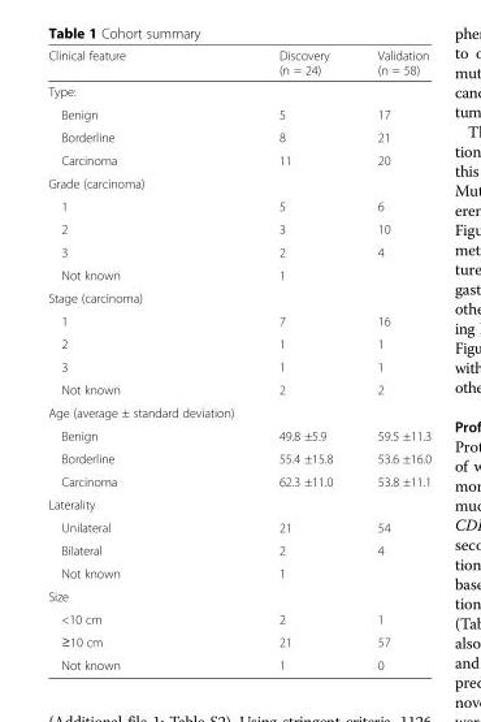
<table><thead><tr><td>Clinical feature</td><td>Discovery (n = 24)</td><td>Validation (n = 58)</td></tr></thead><tbody><tr><td colspan="3">Type:</td></tr><tr><td>Benign</td><td>5</td><td>17</td></tr><tr><td>Borderline</td><td>8</td><td>21</td></tr><tr><td>Carcinoma</td><td>11</td><td>20</td></tr><tr><td colspan="3">Grade (carcinoma)</td></tr><tr><td>1</td><td>5</td><td>6</td></tr><tr><td>2</td><td>3</td><td>10</td></tr><tr><td>3</td><td>2</td><td>4</td></tr><tr><td>Not known</td><td>1</td><td></td></tr><tr><td colspan="3">Stage (carcinoma)</td></tr><tr><td>1</td><td>7</td><td>16</td></tr><tr><td>2</td><td>1</td><td>1</td></tr><tr><td>3</td><td>1</td><td>1</td></tr><tr><td>Not known</td><td>2</td><td>2</td></tr><tr><td colspan="3">Age (average ± standard deviation)</td></tr><tr><td>Benign</td><td>49.8 ±5.9</td><td>59.5 ±11.3</td></tr><tr><td>Borderline</td><td>55.4 ±15.8</td><td>53.6 ±16.0</td></tr><tr><td>Carcinoma</td><td>62.3 ±11.0</td><td>53.8 ±11.1</td></tr><tr><td colspan="3">Laterality</td></tr><tr><td>Unilateral</td><td>21</td><td>54</td></tr><tr><td>Bilateral</td><td>2</td><td>4</td></tr><tr><td>Not known</td><td>1</td><td></td></tr><tr><td colspan="3">Size</td></tr><tr><td>&lt;10 cm</td><td>2</td><td>1</td></tr><tr><td>≥10 cm</td><td>21</td><td>57</td></tr><tr><td>Not known</td><td>1</td><td>0</td></tr></tbody></table>